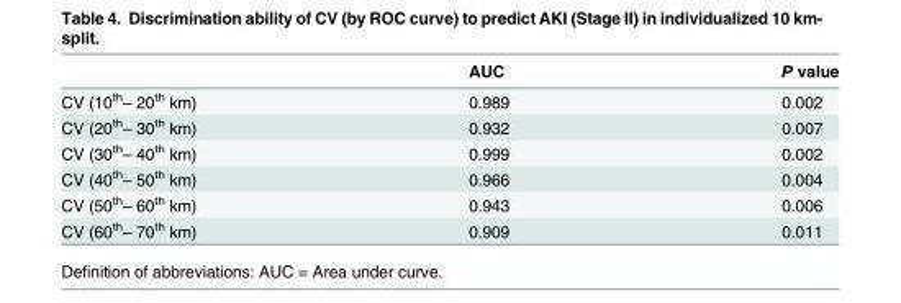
<table><thead><tr><td></td><td>AUC</td><td>P value</td></tr></thead><tbody><tr><td>CV (10<sup>th</sup>– 20<sup>th</sup> km)</td><td>0.989</td><td>0.002</td></tr><tr><td>CV (20<sup>th</sup>– 30<sup>th</sup> km)</td><td>0.932</td><td>0.007</td></tr><tr><td>CV (30<sup>th</sup>– 40<sup>th</sup> km)</td><td>0.999</td><td>0.002</td></tr><tr><td>CV (40<sup>th</sup>– 50<sup>th</sup> km)</td><td>0.966</td><td>0.004</td></tr><tr><td>CV (50<sup>th</sup>– 60<sup>th</sup> km)</td><td>0.943</td><td>0.006</td></tr><tr><td>CV (60<sup>th</sup>– 70<sup>th</sup> km)</td><td>0.909</td><td>0.011</td></tr></tbody></table>